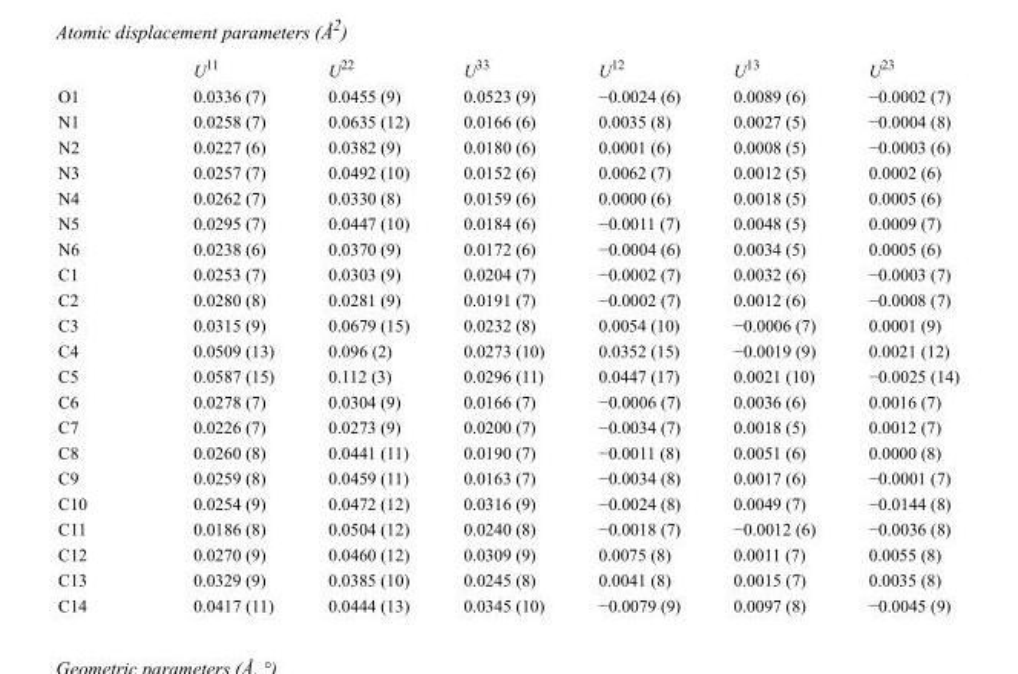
<table><thead><tr><td></td><td>U<sup>11</sup></td><td>U<sup>22</sup></td><td>U<sup>33</sup></td><td>U<sup>12</sup></td><td>U<sup>13</sup></td><td>U<sup>23</sup></td></tr></thead><tbody><tr><td>O1</td><td>0.0336 (7)</td><td>0.0455 (9)</td><td>0.0523 (9)</td><td>−0.0024 (6)</td><td>0.0089 (6)</td><td>−0.0002 (7)</td></tr><tr><td>N1</td><td>0.0258 (7)</td><td>0.0635 (12)</td><td>0.0166 (6)</td><td>0.0035 (8)</td><td>0.0027 (5)</td><td>−0.0004 (8)</td></tr><tr><td>N2</td><td>0.0227 (6)</td><td>0.0382 (9)</td><td>0.0180 (6)</td><td>0.0001 (6)</td><td>0.0008 (5)</td><td>−0.0003 (6)</td></tr><tr><td>N3</td><td>0.0257 (7)</td><td>0.0492 (10)</td><td>0.0152 (6)</td><td>0.0062 (7)</td><td>0.0012 (5)</td><td>0.0002 (6)</td></tr><tr><td>N4</td><td>0.0262 (7)</td><td>0.0330 (8)</td><td>0.0159 (6)</td><td>0.0000 (6)</td><td>0.0018 (5)</td><td>0.0005 (6)</td></tr><tr><td>N5</td><td>0.0295 (7)</td><td>0.0447 (10)</td><td>0.0184 (6)</td><td>−0.0011 (7)</td><td>0.0048 (5)</td><td>0.0009 (7)</td></tr><tr><td>N6</td><td>0.0238 (6)</td><td>0.0370 (9)</td><td>0.0172 (6)</td><td>−0.0004 (6)</td><td>0.0034 (5)</td><td>0.0005 (6)</td></tr><tr><td>C1</td><td>0.0253 (7)</td><td>0.0303 (9)</td><td>0.0204 (7)</td><td>−0.0002 (7)</td><td>0.0032 (6)</td><td>−0.0003 (7)</td></tr><tr><td>C2</td><td>0.0280 (8)</td><td>0.0281 (9)</td><td>0.0191 (7)</td><td>−0.0002 (7)</td><td>0.0012 (6)</td><td>−0.0008 (7)</td></tr><tr><td>C3</td><td>0.0315 (9)</td><td>0.0679 (15)</td><td>0.0232 (8)</td><td>0.0054 (10)</td><td>−0.0006 (7)</td><td>0.0001 (9)</td></tr><tr><td>C4</td><td>0.0509 (13)</td><td>0.096 (2)</td><td>0.0273 (10)</td><td>0.0352 (15)</td><td>−0.0019 (9)</td><td>0.0021 (12)</td></tr><tr><td>C5</td><td>0.0587 (15)</td><td>0.112 (3)</td><td>0.0296 (11)</td><td>0.0447 (17)</td><td>0.0021 (10)</td><td>−0.0025 (14)</td></tr><tr><td>C6</td><td>0.0278 (7)</td><td>0.0304 (9)</td><td>0.0166 (7)</td><td>−0.0006 (7)</td><td>0.0036 (6)</td><td>0.0016 (7)</td></tr><tr><td>C7</td><td>0.0226 (7)</td><td>0.0273 (9)</td><td>0.0200 (7)</td><td>−0.0034 (7)</td><td>0.0018 (5)</td><td>0.0012 (7)</td></tr><tr><td>C8</td><td>0.0260 (8)</td><td>0.0441 (11)</td><td>0.0190 (7)</td><td>−0.0011 (8)</td><td>0.0051 (6)</td><td>0.0000 (8)</td></tr><tr><td>C9</td><td>0.0259 (8)</td><td>0.0459 (11)</td><td>0.0163 (7)</td><td>−0.0034 (8)</td><td>0.0017 (6)</td><td>−0.0001 (7)</td></tr><tr><td>C10</td><td>0.0254 (9)</td><td>0.0472 (12)</td><td>0.0316 (9)</td><td>−0.0024 (8)</td><td>0.0049 (7)</td><td>−0.0144 (8)</td></tr><tr><td>C11</td><td>0.0186 (8)</td><td>0.0504 (12)</td><td>0.0240 (8)</td><td>−0.0018 (7)</td><td>−0.0012 (6)</td><td>−0.0036 (8)</td></tr><tr><td>C12</td><td>0.0270 (9)</td><td>0.0460 (12)</td><td>0.0309 (9)</td><td>0.0075 (8)</td><td>0.0011 (7)</td><td>0.0055 (8)</td></tr><tr><td>C13</td><td>0.0329 (9)</td><td>0.0385 (10)</td><td>0.0245 (8)</td><td>0.0041 (8)</td><td>0.0015 (7)</td><td>0.0035 (8)</td></tr><tr><td>C14</td><td>0.0417 (11)</td><td>0.0444 (13)</td><td>0.0345 (10)</td><td>−0.0079 (9)</td><td>0.0097 (8)</td><td>−0.0045 (9)</td></tr></tbody></table>